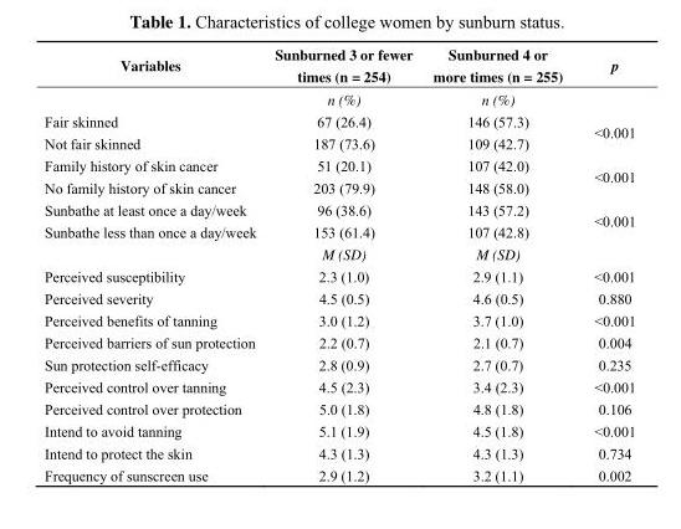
<table><thead><tr><td>Variables</td><td>Sunburned 3 or fewer times (n = 254)</td><td>Sunburned 4 or more times (n = 255)</td><td>p</td></tr></thead><tbody><tr><td></td><td>n (%)</td><td>n (%)</td><td></td></tr><tr><td>Fair skinned</td><td>67 (26.4)</td><td>146 (57.3)</td><td rowspan="2">&lt;0.001</td></tr><tr><td>Not fair skinned</td><td>187 (73.6)</td><td>109 (42.7)</td></tr><tr><td>Family history of skin cancer</td><td>51 (20.1)</td><td>107 (42.0)</td><td rowspan="2">&lt;0.001</td></tr><tr><td>No family history of skin cancer</td><td>203 (79.9)</td><td>148 (58.0)</td></tr><tr><td>Sunbathe at least once a day/week</td><td>96 (38.6)</td><td>143 (57.2)</td><td rowspan="2">&lt;0.001</td></tr><tr><td rowspan="2">Sunbathe less than once a day/week</td><td>153 (61.4)</td><td>107 (42.8)</td></tr><tr><td>M (SD)</td><td>M (SD)</td><td></td></tr><tr><td>Perceived susceptibility</td><td>2.3 (1.0)</td><td>2.9 (1.1)</td><td>&lt;0.001</td></tr><tr><td>Perceived severity</td><td>4.5 (0.5)</td><td>4.6 (0.5)</td><td>0.880</td></tr><tr><td>Perceived benefits of tanning</td><td>3.0 (1.2)</td><td>3.7 (1.0)</td><td>&lt;0.001</td></tr><tr><td>Perceived barriers of sun protection</td><td>2.2 (0.7)</td><td>2.1 (0.7)</td><td>0.004</td></tr><tr><td>Sun protection self-efficacy</td><td>2.8 (0.9)</td><td>2.7 (0.7)</td><td>0.235</td></tr><tr><td>Perceived control over tanning</td><td>4.5 (2.3)</td><td>3.4 (2.3)</td><td>&lt;0.001</td></tr><tr><td>Perceived control over protection</td><td>5.0 (1.8)</td><td>4.8 (1.8)</td><td>0.106</td></tr><tr><td>Intend to avoid tanning</td><td>5.1 (1.9)</td><td>4.5 (1.8)</td><td>&lt;0.001</td></tr><tr><td>Intend to protect the skin</td><td>4.3 (1.3)</td><td>4.3 (1.3)</td><td>0.734</td></tr><tr><td>Frequency of sunscreen use</td><td>2.9 (1.2)</td><td>3.2 (1.1)</td><td>0.002</td></tr></tbody></table>